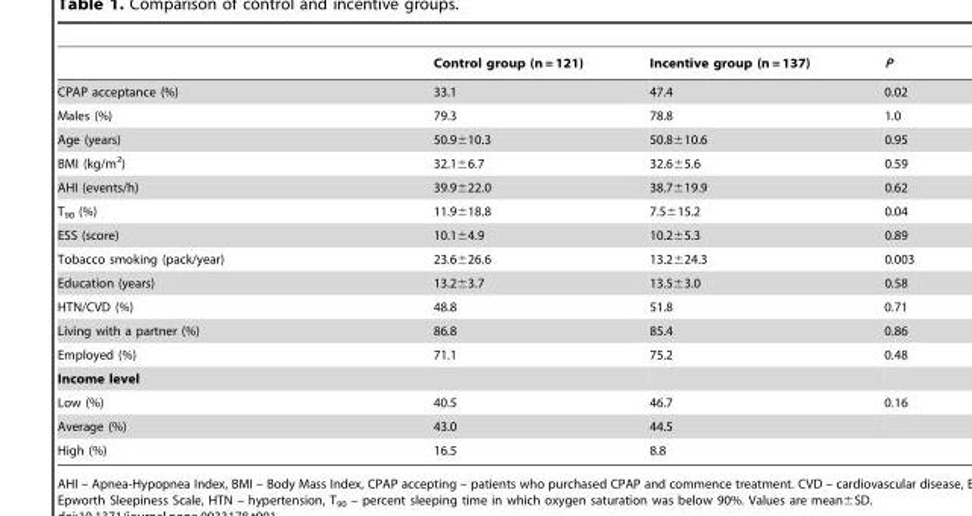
<table><thead><tr><td></td><td>Control group (n = 121)</td><td>Incentive group (n = 137)</td><td>P</td></tr></thead><tbody><tr><td>CPAP acceptance (%)</td><td>33.1</td><td>47.4</td><td>0.02</td></tr><tr><td>Males (%)</td><td>79.3</td><td>78.8</td><td>1.0</td></tr><tr><td>Age (years)</td><td>50.9±10.3</td><td>50.8±10.6</td><td>0.95</td></tr><tr><td>BMI (kg/m<sup>2</sup>)</td><td>32.1±6.7</td><td>32.6±5.6</td><td>0.59</td></tr><tr><td>AHI (events/h)</td><td>39.9±22.0</td><td>38.7±19.9</td><td>0.62</td></tr><tr><td>T<sub>90</sub> (%)</td><td>11.9±18.8</td><td>7.5±15.2</td><td>0.04</td></tr><tr><td>ESS (score)</td><td>10.1±4.9</td><td>10.2±5.3</td><td>0.89</td></tr><tr><td>Tobacco smoking (pack/year)</td><td>23.6±26.6</td><td>13.2±24.3</td><td>0.003</td></tr><tr><td>Education (years)</td><td>13.2±3.7</td><td>13.5±3.0</td><td>0.58</td></tr><tr><td>HTN/CVD (%)</td><td>48.8</td><td>51.8</td><td>0.71</td></tr><tr><td>Living with a partner (%)</td><td>86.8</td><td>85.4</td><td>0.86</td></tr><tr><td>Employed (%)</td><td>71.1</td><td>75.2</td><td>0.48</td></tr><tr><td colspan="4">Income level</td></tr><tr><td>Low (%)</td><td>40.5</td><td>46.7</td><td>0.16</td></tr><tr><td>Average (%)</td><td>43.0</td><td>44.5</td><td></td></tr><tr><td>High (%)</td><td>16.5</td><td>8.8</td><td></td></tr></tbody></table>